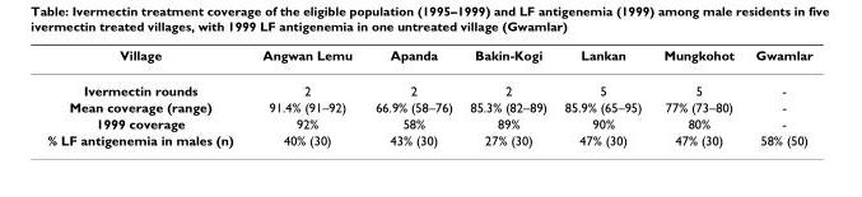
<table><thead><tr><td>Village</td><td>Angwan Lemu</td><td>Apanda</td><td>Bakin-Kogi</td><td>Lankan</td><td>Mungkohot</td><td>Gwamlar</td></tr></thead><tbody><tr><td>Ivermectin rounds</td><td>2</td><td>2</td><td>2</td><td>5</td><td>5</td><td>-</td></tr><tr><td>Mean coverage (range)</td><td>91.4% (91–92)</td><td>66.9% (58–76)</td><td>85.3% (82–89)</td><td>85.9% (65–95)</td><td>77% (73–80)</td><td>-</td></tr><tr><td>1999 coverage</td><td>92%</td><td>58%</td><td>89%</td><td>90%</td><td>80%</td><td>-</td></tr><tr><td>% LF antigenemia in males (n)</td><td>40% (30)</td><td>43% (30)</td><td>27% (30)</td><td>47% (30)</td><td>47% (30)</td><td>58% (50)</td></tr></tbody></table>